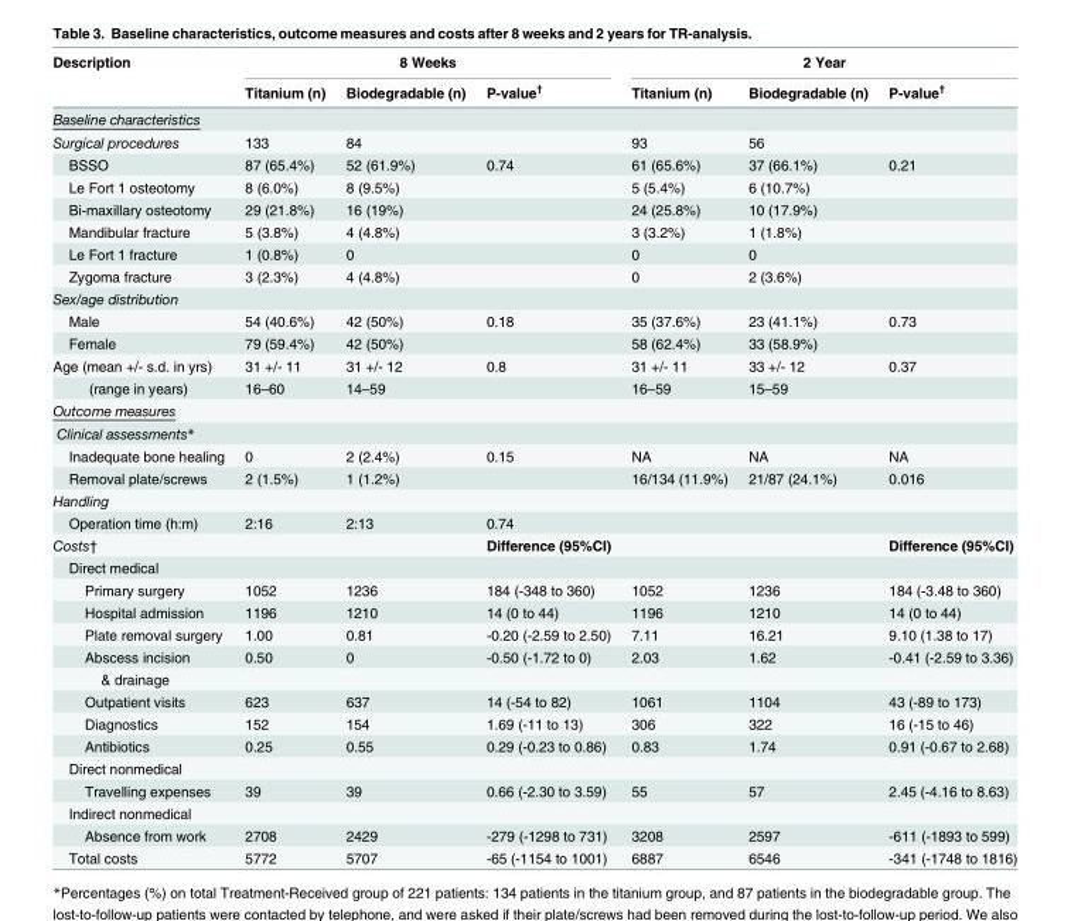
<table><thead><tr><td rowspan="2">Description</td><td colspan="3">8 Weeks</td><td colspan="3">2 Year</td></tr><tr><td>Titanium (n)</td><td>Biodegradable (n)</td><td>P-value<sup>†</sup></td><td>Titanium (n)</td><td>Biodegradable (n)</td><td>P-value<sup>†</sup></td></tr></thead><tbody><tr><td colspan="7">Baseline characteristics</td></tr><tr><td>Surgical procedures</td><td>133</td><td>84</td><td></td><td>93</td><td>56</td><td></td></tr><tr><td>BSSO</td><td>87 (65.4%)</td><td>52 (61.9%)</td><td>0.74</td><td>61 (65.6%)</td><td>37 (66.1%)</td><td>0.21</td></tr><tr><td>Le Fort 1 osteotomy</td><td>8 (6.0%)</td><td>8 (9.5%)</td><td></td><td>5 (5.4%)</td><td>6 (10.7%)</td><td></td></tr><tr><td>Bi-maxillary osteotomy</td><td>29 (21.8%)</td><td>16 (19%)</td><td></td><td>24 (25.8%)</td><td>10 (17.9%)</td><td></td></tr><tr><td>Mandibular fracture</td><td>5 (3.8%)</td><td>4 (4.8%)</td><td></td><td>3 (3.2%)</td><td>1 (1.8%)</td><td></td></tr><tr><td>Le Fort 1 fracture</td><td>1 (0.8%)</td><td>0</td><td></td><td>0</td><td>0</td><td></td></tr><tr><td>Zygoma fracture</td><td>3 (2.3%)</td><td>4 (4.8%)</td><td></td><td>0</td><td>2 (3.6%)</td><td></td></tr><tr><td colspan="7">Sex/age distribution</td></tr><tr><td>Male</td><td>54 (40.6%)</td><td>42 (50%)</td><td>0.18</td><td>35 (37.6%)</td><td>23 (41.1%)</td><td>0.73</td></tr><tr><td>Female</td><td>79 (59.4%)</td><td>42 (50%)</td><td></td><td>58 (62.4%)</td><td>33 (58.9%)</td><td></td></tr><tr><td>Age (mean +/- s.d. in yrs)</td><td>31 +/- 11</td><td>31 +/- 12</td><td>0.8</td><td>31 +/- 11</td><td>33 +/- 12</td><td>0.37</td></tr><tr><td>(range in years)</td><td>16–60</td><td>14–59</td><td></td><td>16–59</td><td>15–59</td><td></td></tr><tr><td colspan="7">Outcome measures</td></tr><tr><td colspan="7">Clinical assessments*</td></tr><tr><td>Inadequate bone healing</td><td>0</td><td>2 (2.4%)</td><td>0.15</td><td>NA</td><td>NA</td><td>NA</td></tr><tr><td>Removal plate/screws</td><td>2 (1.5%)</td><td>1 (1.2%)</td><td></td><td>16/134 (11.9%)</td><td>21/87 (24.1%)</td><td>0.016</td></tr><tr><td colspan="7">Handling</td></tr><tr><td>Operation time (h:m)</td><td>2:16</td><td>2:13</td><td>0.74</td><td></td><td></td><td></td></tr><tr><td>Costs†</td><td></td><td></td><td>Difference (95%CI)</td><td></td><td></td><td>Difference (95%CI)</td></tr><tr><td colspan="7">Direct medical</td></tr><tr><td>Primary surgery</td><td>1052</td><td>1236</td><td>184 (-348 to 360)</td><td>1052</td><td>1236</td><td>184 (-3.48 to 360)</td></tr><tr><td>Hospital admission</td><td>1196</td><td>1210</td><td>14 (0 to 44)</td><td>1196</td><td>1210</td><td>14 (0 to 44)</td></tr><tr><td>Plate removal surgery</td><td>1.00</td><td>0.81</td><td>-0.20 (-2.59 to 2.50)</td><td>7.11</td><td>16.21</td><td>9.10 (1.38 to 17)</td></tr><tr><td>Abscess incision</td><td>0.50</td><td>0</td><td>-0.50 (-1.72 to 0)</td><td>2.03</td><td>1.62</td><td>-0.41 (-2.59 to 3.36)</td></tr><tr><td colspan="7">&amp; drainage</td></tr><tr><td>Outpatient visits</td><td>623</td><td>637</td><td>14 (-54 to 82)</td><td>1061</td><td>1104</td><td>43 (-89 to 173)</td></tr><tr><td>Diagnostics</td><td>152</td><td>154</td><td>1.69 (-11 to 13)</td><td>306</td><td>322</td><td>16 (-15 to 46)</td></tr><tr><td>Antibiotics</td><td>0.25</td><td>0.55</td><td>0.29 (-0.23 to 0.86)</td><td>0.83</td><td>1.74</td><td>0.91 (-0.67 to 2.68)</td></tr><tr><td colspan="7">Direct nonmedical</td></tr><tr><td>Travelling expenses</td><td>39</td><td>39</td><td>0.66 (-2.30 to 3.59)</td><td>55</td><td>57</td><td>2.45 (-4.16 to 8.63)</td></tr><tr><td colspan="7">Indirect nonmedical</td></tr><tr><td>Absence from work</td><td>2708</td><td>2429</td><td>-279 (-1298 to 731)</td><td>3208</td><td>2597</td><td>-611 (-1893 to 599)</td></tr><tr><td>Total costs</td><td>5772</td><td>5707</td><td>-65 (-1154 to 1001)</td><td>6887</td><td>6546</td><td>-341 (-1748 to 1816)</td></tr></tbody></table>